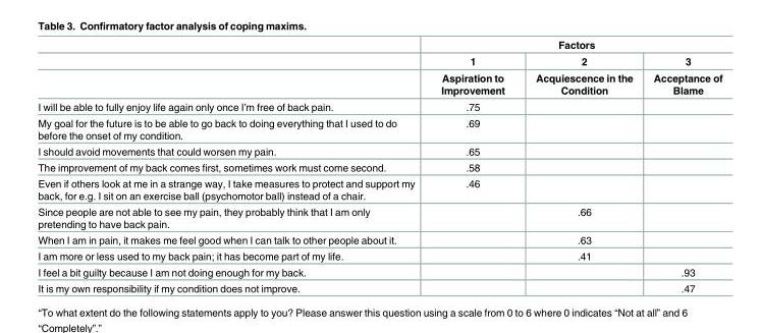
<table><thead><tr><td rowspan="3"></td><td colspan="3">Factors</td></tr><tr><td rowspan="2">1 Aspiration to Improvement</td><td rowspan="2">2 Acquiescence in the Condition</td><td rowspan="2">3 Acceptance of Blame</td></tr><tr></tr></thead><tbody><tr><td>I will be able to fully enjoy life again only once I’m free of back pain.</td><td>.75</td><td></td><td></td></tr><tr><td>My goal for the future is to be able to go back to doing everything that I used to do before the onset of my condition.</td><td>.69</td><td></td><td></td></tr><tr><td>I should avoid movements that could worsen my pain.</td><td>.65</td><td></td><td></td></tr><tr><td>The improvement of my back comes first, sometimes work must come second.</td><td>.58</td><td></td><td></td></tr><tr><td>Even if others look at me in a strange way, I take measures to protect and support my back, for e.g. I sit on an exercise ball (psychomotor ball) instead of a chair.</td><td>.46</td><td></td><td></td></tr><tr><td>Since people are not able to see my pain, they probably think that I am only pretending to have back pain.</td><td></td><td>.66</td><td></td></tr><tr><td>When I am in pain, it makes me feel good when I can talk to other people about it.</td><td></td><td>.63</td><td></td></tr><tr><td>I am more or less used to my back pain; it has become part of my life.</td><td></td><td>.41</td><td></td></tr><tr><td>I feel a bit guilty because I am not doing enough for my back.</td><td></td><td></td><td>.93</td></tr><tr><td>It is my own responsibility if my condition does not improve.</td><td></td><td></td><td>.47</td></tr></tbody></table>